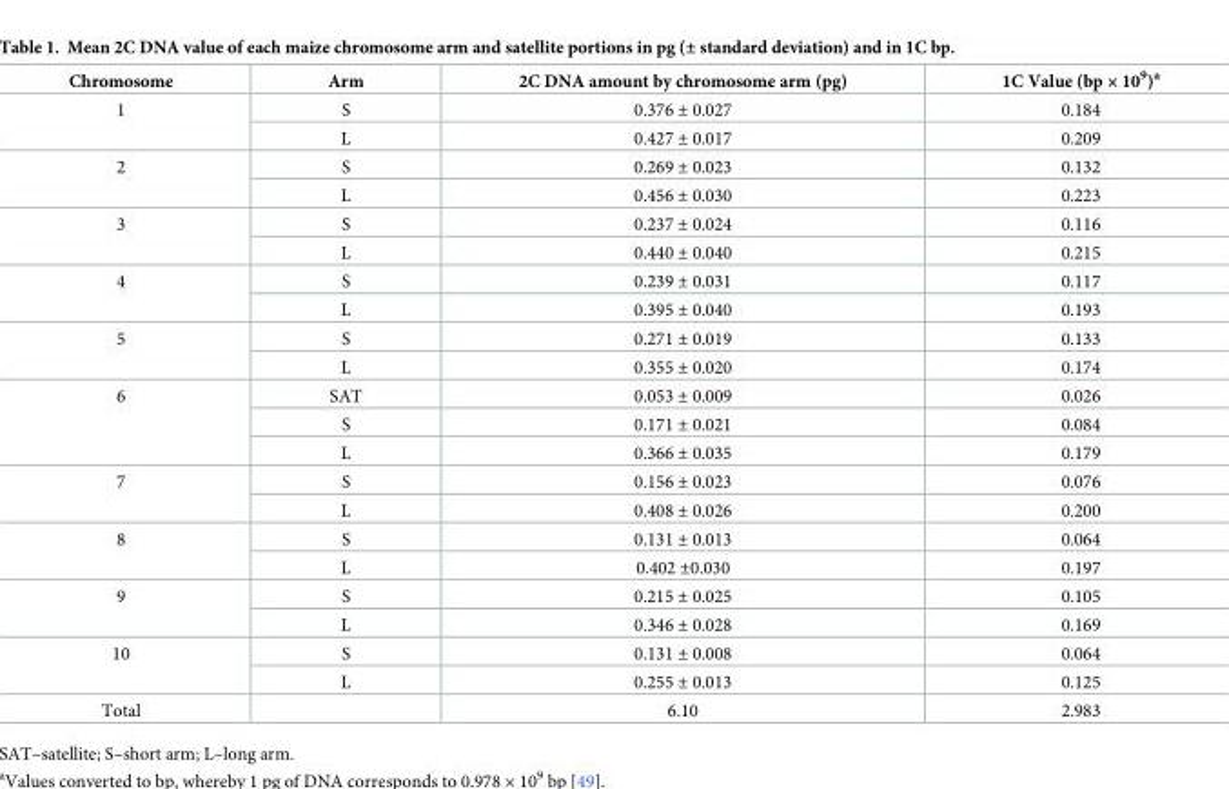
<table><thead><tr><td>Chromosome</td><td>Arm</td><td>2C DNA amount by chromosome arm (pg)</td><td>1C Value (bp × 10<sup>9</sup>)<sup>a</sup></td></tr></thead><tbody><tr><td rowspan="2">1</td><td>S</td><td>0.376 ± 0.027</td><td>0.184</td></tr><tr><td>L</td><td>0.427 ± 0.017</td><td>0.209</td></tr><tr><td rowspan="2">2</td><td>S</td><td>0.269 ± 0.023</td><td>0.132</td></tr><tr><td>L</td><td>0.456 ± 0.030</td><td>0.223</td></tr><tr><td rowspan="2">3</td><td>S</td><td>0.237 ± 0.024</td><td>0.116</td></tr><tr><td>L</td><td>0.440 ± 0.040</td><td>0.215</td></tr><tr><td rowspan="2">4</td><td>S</td><td>0.239 ± 0.031</td><td>0.117</td></tr><tr><td>L</td><td>0.395 ± 0.040</td><td>0.193</td></tr><tr><td rowspan="2">5</td><td>S</td><td>0.271 ± 0.019</td><td>0.133</td></tr><tr><td>L</td><td>0.355 ± 0.020</td><td>0.174</td></tr><tr><td rowspan="3">6</td><td>SAT</td><td>0.053 ± 0.009</td><td>0.026</td></tr><tr><td>S</td><td>0.171 ± 0.021</td><td>0.084</td></tr><tr><td>L</td><td>0.366 ± 0.035</td><td>0.179</td></tr><tr><td rowspan="2">7</td><td>S</td><td>0.156 ± 0.023</td><td>0.076</td></tr><tr><td>L</td><td>0.408 ± 0.026</td><td>0.200</td></tr><tr><td rowspan="2">8</td><td>S</td><td>0.131 ± 0.013</td><td>0.064</td></tr><tr><td>L</td><td>0.402 ±0.030</td><td>0.197</td></tr><tr><td rowspan="2">9</td><td>S</td><td>0.215 ± 0.025</td><td>0.105</td></tr><tr><td>L</td><td>0.346 ± 0.028</td><td>0.169</td></tr><tr><td rowspan="2">10</td><td>S</td><td>0.131 ± 0.008</td><td>0.064</td></tr><tr><td>L</td><td>0.255 ± 0.013</td><td>0.125</td></tr><tr><td>Total</td><td></td><td>6.10</td><td>2.983</td></tr></tbody></table>